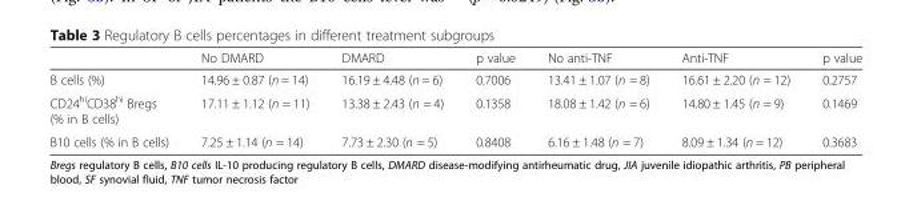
<table><thead><tr><td></td><td>No DMARD</td><td>DMARD</td><td>p value</td><td>No anti-TNF</td><td>Anti-TNF</td><td>p value</td></tr></thead><tbody><tr><td>B cells (%)</td><td>14.96 ± 0.87 (n = 14)</td><td>16.19 ± 4.48 (n = 6)</td><td>0.7006</td><td>13.41 ± 1.07 (n = 8)</td><td>16.61 ± 2.20 (n = 12)</td><td>0.2757</td></tr><tr><td>CD24<sup>hi</sup>CD38<sup>hi</sup> Bregs (% in B cells)</td><td>17.11 ± 1.12 (n = 11)</td><td>13.38 ± 2.43 (n = 4)</td><td>0.1358</td><td>18.08 ± 1.42 (n = 6)</td><td>14.80 ± 1.45 (n = 9)</td><td>0.1469</td></tr><tr><td>B10 cells (% in B cells)</td><td>7.25 ± 1.14 (n = 14)</td><td>7.73 ± 2.30 (n = 5)</td><td>0.8408</td><td>6.16 ± 1.48 (n = 7)</td><td>8.09 ± 1.34 (n = 12)</td><td>0.3683</td></tr></tbody></table>